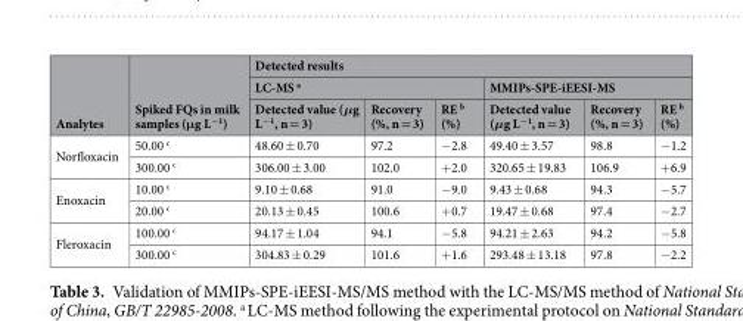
<table><thead><tr><td rowspan="3">Analytes</td><td rowspan="3">Spiked FQs in milk samples (μg L<sup>−1</sup>)</td><td colspan="6">Detected results</td></tr><tr><td colspan="3">LC-MS <sup>a</sup></td><td colspan="3">MMIPs-SPE-iEESI-MS</td></tr><tr><td>Detected value (μg L<sup>−1</sup>, n = 3)</td><td>Recovery (%, n = 3)</td><td>RE <sup>b</sup> (%)</td><td>Detected value (μg L<sup>−1</sup>, n = 3)</td><td>Recovery (%, n = 3)</td><td>RE <sup>b</sup> (%)</td></tr></thead><tbody><tr><td rowspan="2">Norfloxacin</td><td>50.00 <sup>c</sup></td><td>48.60 ± 0.70</td><td>97.2</td><td>−2.8</td><td>49.40 ± 3.57</td><td>98.8</td><td>−1.2</td></tr><tr><td>300.00 <sup>c</sup></td><td>306.00 ± 3.00</td><td>102.0</td><td>+2.0</td><td>320.65 ± 19.83</td><td>106.9</td><td>+6.9</td></tr><tr><td rowspan="2">Enoxacin</td><td>10.00 <sup>c</sup></td><td>9.10 ± 0.68</td><td>91.0</td><td>−9.0</td><td>9.43 ± 0.68</td><td>94.3</td><td>−5.7</td></tr><tr><td>20.00 <sup>c</sup></td><td>20.13 ± 0.45</td><td>100.6</td><td>+0.7</td><td>19.47 ± 0.68</td><td>97.4</td><td>−2.7</td></tr><tr><td rowspan="2">Fleroxacin</td><td>100.00 <sup>c</sup></td><td>94.17 ± 1.04</td><td>94.1</td><td>−5.8</td><td>94.21 ± 2.63</td><td>94.2</td><td>−5.8</td></tr><tr><td>300.00 <sup>c</sup></td><td>304.83 ± 0.29</td><td>101.6</td><td>+1.6</td><td>293.48 ± 13.18</td><td>97.8</td><td>−2.2</td></tr></tbody></table>